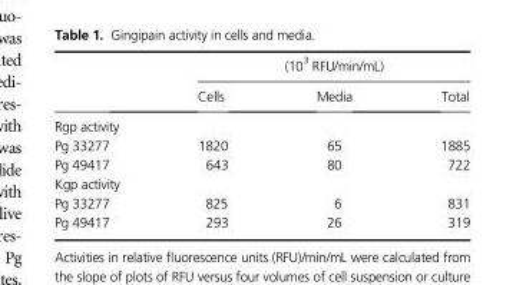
<table><thead><tr><td rowspan="2"></td><td colspan="3">(10<sup>3</sup> RFU/min/mL)</td></tr><tr><td>Cells</td><td>Media</td><td>Total</td></tr></thead><tbody><tr><td colspan="4">Rgp activity</td></tr><tr><td>Pg 33277</td><td>1820</td><td>65</td><td>1885</td></tr><tr><td>Pg 49417</td><td>643</td><td>80</td><td>722</td></tr><tr><td colspan="4">Kgp activity</td></tr><tr><td>Pg 33277</td><td>825</td><td>6</td><td>831</td></tr><tr><td>Pg 49417</td><td>293</td><td>26</td><td>319</td></tr></tbody></table>